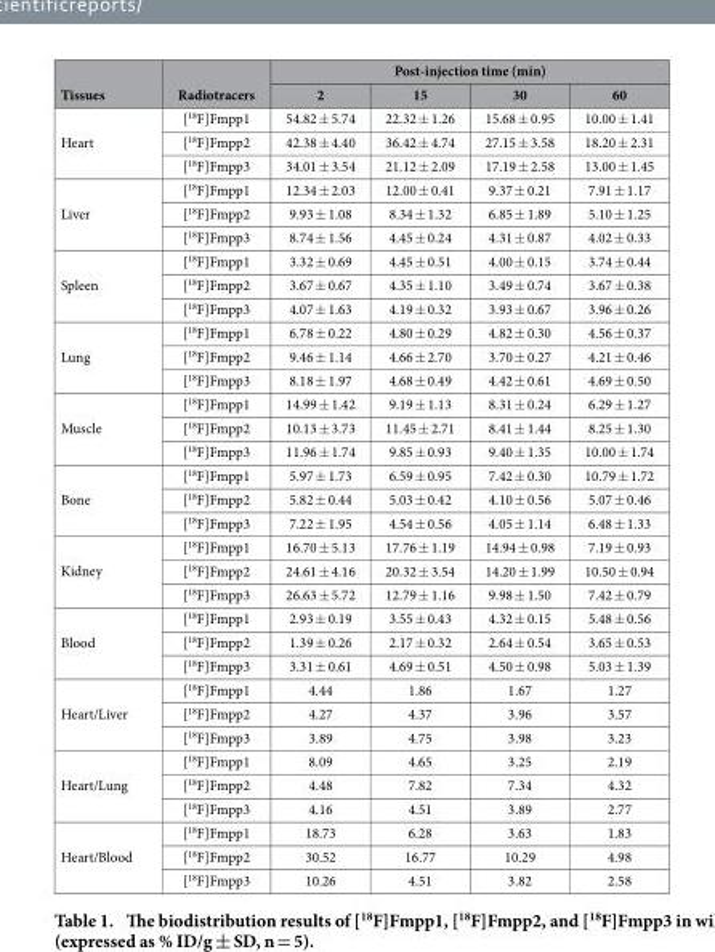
<table><thead><tr><td rowspan="2">Tissues</td><td rowspan="2">Radiotracers</td><td colspan="4">Post-injection time (min)</td></tr><tr><td>2</td><td>15</td><td>30</td><td>60</td></tr></thead><tbody><tr><td rowspan="3">Heart</td><td>[<sup>18</sup>F]Fmpp1</td><td>54.82 ± 5.74</td><td>22.32 ± 1.26</td><td>15.68 ± 0.95</td><td>10.00 ± 1.41</td></tr><tr><td>[<sup>18</sup>F]Fmpp2</td><td>42.38 ± 4.40</td><td>36.42 ± 4.74</td><td>27.15 ± 3.58</td><td>18.20 ± 2.31</td></tr><tr><td>[<sup>18</sup>F]Fmpp3</td><td>34.01 ± 3.54</td><td>21.12 ± 2.09</td><td>17.19 ± 2.58</td><td>13.00 ± 1.45</td></tr><tr><td rowspan="3">Liver</td><td>[<sup>18</sup>F]Fmpp1</td><td>12.34 ± 2.03</td><td>12.00 ± 0.41</td><td>9.37 ± 0.21</td><td>7.91 ± 1.17</td></tr><tr><td>[<sup>18</sup>F]Fmpp2</td><td>9.93 ± 1.08</td><td>8.34 ± 1.32</td><td>6.85 ± 1.89</td><td>5.10 ± 1.25</td></tr><tr><td>[<sup>18</sup>F]Fmpp3</td><td>8.74 ± 1.56</td><td>4.45 ± 0.24</td><td>4.31 ± 0.87</td><td>4.02 ± 0.33</td></tr><tr><td rowspan="3">Spleen</td><td>[<sup>18</sup>F]Fmpp1</td><td>3.32 ± 0.69</td><td>4.45 ± 0.51</td><td>4.00 ± 0.15</td><td>3.74 ± 0.44</td></tr><tr><td>[<sup>18</sup>F]Fmpp2</td><td>3.67 ± 0.67</td><td>4.35 ± 1.10</td><td>3.49 ± 0.74</td><td>3.67 ± 0.38</td></tr><tr><td>[<sup>18</sup>F]Fmpp3</td><td>4.07 ± 1.63</td><td>4.19 ± 0.32</td><td>3.93 ± 0.67</td><td>3.96 ± 0.26</td></tr><tr><td rowspan="3">Lung</td><td>[<sup>18</sup>F]Fmpp1</td><td>6.78 ± 0.22</td><td>4.80 ± 0.29</td><td>4.82 ± 0.30</td><td>4.56 ± 0.37</td></tr><tr><td>[<sup>18</sup>F]Fmpp2</td><td>9.46 ± 1.14</td><td>4.66 ± 2.70</td><td>3.70 ± 0.27</td><td>4.21 ± 0.46</td></tr><tr><td>[<sup>18</sup>F]Fmpp3</td><td>8.18 ± 1.97</td><td>4.68 ± 0.49</td><td>4.42 ± 0.61</td><td>4.69 ± 0.50</td></tr><tr><td rowspan="3">Muscle</td><td>[<sup>18</sup>F]Fmpp1</td><td>14.99 ± 1.42</td><td>9.19 ± 1.13</td><td>8.31 ± 0.24</td><td>6.29 ± 1.27</td></tr><tr><td>[<sup>18</sup>F]Fmpp2</td><td>10.13 ± 3.73</td><td>11.45 ± 2.71</td><td>8.41 ± 1.44</td><td>8.25 ± 1.30</td></tr><tr><td>[<sup>18</sup>F]Fmpp3</td><td>11.96 ± 1.74</td><td>9.85 ± 0.93</td><td>9.40 ± 1.35</td><td>10.00 ± 1.74</td></tr><tr><td rowspan="3">Bone</td><td>[<sup>18</sup>F]Fmpp1</td><td>5.97 ± 1.73</td><td>6.59 ± 0.95</td><td>7.42 ± 0.30</td><td>10.79 ± 1.72</td></tr><tr><td>[<sup>18</sup>F]Fmpp2</td><td>5.82 ± 0.44</td><td>5.03 ± 0.42</td><td>4.10 ± 0.56</td><td>5.07 ± 0.46</td></tr><tr><td>[<sup>18</sup>F]Fmpp3</td><td>7.22 ± 1.95</td><td>4.54 ± 0.56</td><td>4.05 ± 1.14</td><td>6.48 ± 1.33</td></tr><tr><td rowspan="3">Kidney</td><td>[<sup>18</sup>F]Fmpp1</td><td>16.70 ± 5.13</td><td>17.76 ± 1.19</td><td>14.94 ± 0.98</td><td>7.19 ± 0.93</td></tr><tr><td>[<sup>18</sup>F]Fmpp2</td><td>24.61 ± 4.16</td><td>20.32 ± 3.54</td><td>14.20 ± 1.99</td><td>10.50 ± 0.94</td></tr><tr><td>[<sup>18</sup>F]Fmpp3</td><td>26.63 ± 5.72</td><td>12.79 ± 1.16</td><td>9.98 ± 1.50</td><td>7.42 ± 0.79</td></tr><tr><td rowspan="3">Blood</td><td>[<sup>18</sup>F]Fmpp1</td><td>2.93 ± 0.19</td><td>3.55 ± 0.43</td><td>4.32 ± 0.15</td><td>5.48 ± 0.56</td></tr><tr><td>[<sup>18</sup>F]Fmpp2</td><td>1.39 ± 0.26</td><td>2.17 ± 0.32</td><td>2.64 ± 0.54</td><td>3.65 ± 0.53</td></tr><tr><td>[<sup>18</sup>F]Fmpp3</td><td>3.31 ± 0.61</td><td>4.69 ± 0.51</td><td>4.50 ± 0.98</td><td>5.03 ± 1.39</td></tr><tr><td rowspan="3">Heart/Liver</td><td>[<sup>18</sup>F]Fmpp1</td><td>4.44</td><td>1.86</td><td>1.67</td><td>1.27</td></tr><tr><td>[<sup>18</sup>F]Fmpp2</td><td>4.27</td><td>4.37</td><td>3.96</td><td>3.57</td></tr><tr><td>[<sup>18</sup>F]Fmpp3</td><td>3.89</td><td>4.75</td><td>3.98</td><td>3.23</td></tr><tr><td rowspan="3">Heart/Lung</td><td>[<sup>18</sup>F]Fmpp1</td><td>8.09</td><td>4.65</td><td>3.25</td><td>2.19</td></tr><tr><td>[<sup>18</sup>F]Fmpp2</td><td>4.48</td><td>7.82</td><td>7.34</td><td>4.32</td></tr><tr><td>[<sup>18</sup>F]Fmpp3</td><td>4.16</td><td>4.51</td><td>3.89</td><td>2.77</td></tr><tr><td rowspan="3">Heart/Blood</td><td>[<sup>18</sup>F]Fmpp1</td><td>18.73</td><td>6.28</td><td>3.63</td><td>1.83</td></tr><tr><td>[<sup>18</sup>F]Fmpp2</td><td>30.52</td><td>16.77</td><td>10.29</td><td>4.98</td></tr><tr><td>[<sup>18</sup>F]Fmpp3</td><td>10.26</td><td>4.51</td><td>3.82</td><td>2.58</td></tr></tbody></table>